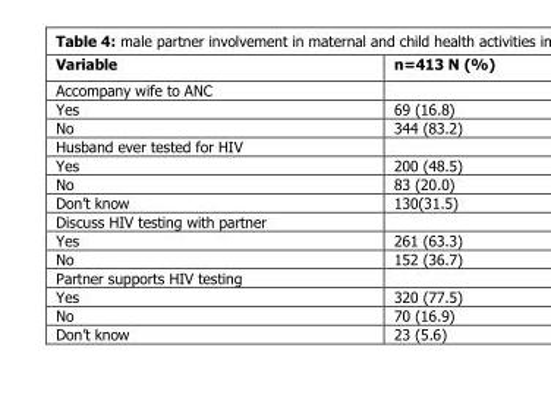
<table><thead><tr><td>Variable</td><td>n=413 N (%)</td></tr></thead><tbody><tr><td colspan="2">Accompany wife to ANC</td></tr><tr><td>Yes</td><td>69 (16.8)</td></tr><tr><td>No</td><td>344 (83.2)</td></tr><tr><td colspan="2">Husband ever tested for HIV</td></tr><tr><td>Yes</td><td>200 (48.5)</td></tr><tr><td>No</td><td>83 (20.0)</td></tr><tr><td>Don’t know</td><td>130(31.5)</td></tr><tr><td colspan="2">Discuss HIV testing with partner</td></tr><tr><td>Yes</td><td>261 (63.3)</td></tr><tr><td>No</td><td>152 (36.7)</td></tr><tr><td colspan="2">Partner supports HIV testing</td></tr><tr><td>Yes</td><td>320 (77.5)</td></tr><tr><td>No</td><td>70 (16.9)</td></tr><tr><td>Don’t know</td><td>23 (5.6)</td></tr></tbody></table>